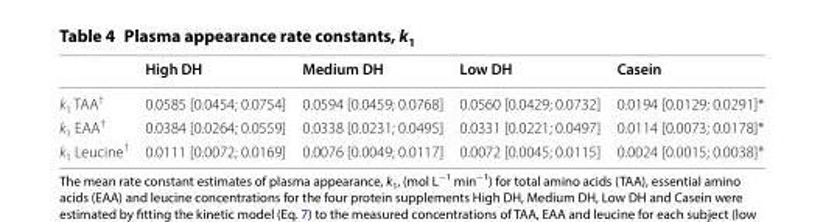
<table><thead><tr><td></td><td>High DH</td><td>Medium DH</td><td>Low DH</td><td>Casein</td></tr></thead><tbody><tr><td>k<sub>1</sub> TAA<sup>†</sup></td><td>0.0585 [0.0454; 0.0754]</td><td>0.0594 [0.0459; 0.0768]</td><td>0.0560 [0.0429; 0.0732]</td><td>0.0194 [0.0129; 0.0291]*</td></tr><tr><td>k<sub>1</sub> EAA<sup>†</sup></td><td>0.0384 [0.0264; 0.0559]</td><td>0.0338 [0.0231; 0.0495]</td><td>0.0331 [0.0221; 0.0497]</td><td>0.0114 [0.0073; 0.0178]*</td></tr><tr><td>k<sub>1</sub> Leucine<sup>†</sup></td><td>0.0111 [0.0072; 0.0169]</td><td>0.0076 [0.0049; 0.0117]</td><td>0.0072 [0.0045; 0.0115]</td><td>0.0024 [0.0015; 0.0038]*</td></tr></tbody></table>